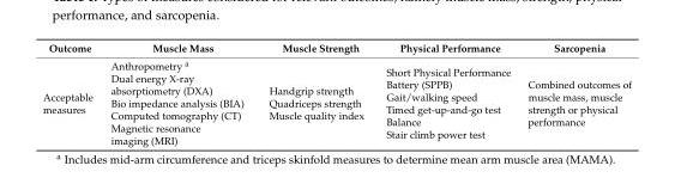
<table><thead><tr><td>Outcome</td><td>Muscle Mass</td><td>Muscle Strength</td><td>Physical Performance</td><td>Sarcopenia</td></tr></thead><tbody><tr><td>Acceptable measures</td><td>Anthropometry <sup>a</sup> Dual energy X-ray absorptiometry (DXA) Bio impedance analysis (BIA) Computed tomography (CT) Magnetic resonance imaging (MRI)</td><td>Handgrip strength Quadriceps strength Muscle quality index</td><td>Short Physical Performance Battery (SPPB) Gait/walking speed Timed get-up-and-go test Balance Stair climb power test</td><td>Combined outcomes of muscle mass, muscle strength or physical performance</td></tr></tbody></table>